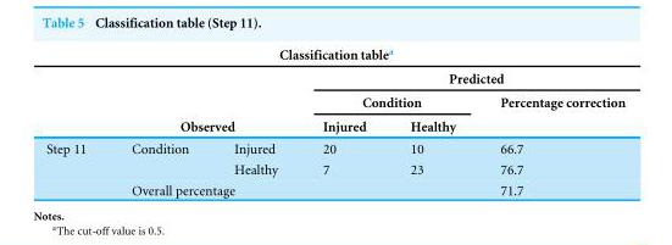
<table><thead><tr><td colspan="6">Classification table<sup>a</sup></td></tr><tr><td rowspan="3"></td><td rowspan="2"></td><td rowspan="2"></td><td colspan="3">Predicted</td></tr><tr><td colspan="2">Condition</td><td rowspan="2">Percentage correction</td></tr><tr><td colspan="2">Observed</td><td>Injured</td><td>Healthy</td></tr></thead><tbody><tr><td rowspan="3">Step 11</td><td>Condition</td><td>Injured</td><td>20</td><td>10</td><td>66.7</td></tr><tr><td></td><td>Healthy</td><td>7</td><td>23</td><td>76.7</td></tr><tr><td colspan="2">Overall percentage</td><td></td><td></td><td>71.7</td></tr></tbody></table>